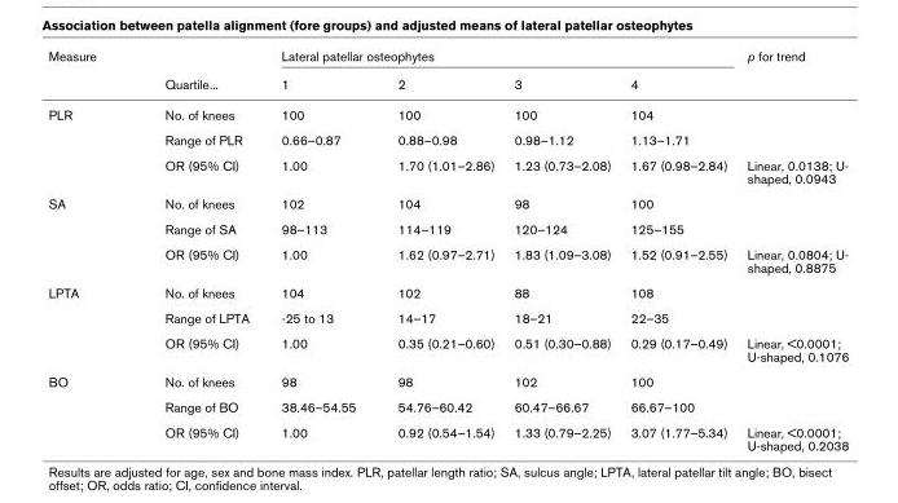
<table><thead><tr><td rowspan="2">Measure</td><td rowspan="2">Quartile...</td><td colspan="4">Lateral patellar osteophytes</td><td rowspan="2">p for trend</td></tr><tr><td>1</td><td>2</td><td>3</td><td>4</td></tr></thead><tbody><tr><td rowspan="3">PLR</td><td>No. of knees</td><td>100</td><td>100</td><td>100</td><td>104</td><td></td></tr><tr><td>Range of PLR</td><td>0.66–0.87</td><td>0.88–0.98</td><td>0.98–1.12</td><td>1.13–1.71</td><td></td></tr><tr><td>OR (95% CI)</td><td>1.00</td><td>1.70 (1.01–2.86)</td><td>1.23 (0.73–2.08)</td><td>1.67 (0.98–2.84)</td><td>Linear, 0.0138; U- shaped, 0.0943</td></tr><tr><td rowspan="3">SA</td><td>No. of knees</td><td>102</td><td>104</td><td>98</td><td>100</td><td></td></tr><tr><td>Range of SA</td><td>98–113</td><td>114–119</td><td>120–124</td><td>125–155</td><td></td></tr><tr><td>OR (95% CI)</td><td>1.00</td><td>1.62 (0.97–2.71)</td><td>1.83 (1.09–3.08)</td><td>1.52 (0.91–2.55)</td><td>Linear, 0.0804; U- shaped, 0.8875</td></tr><tr><td rowspan="3">LPTA</td><td>No. of knees</td><td>104</td><td>102</td><td>88</td><td>108</td><td></td></tr><tr><td>Range of LPTA</td><td>-25 to 13</td><td>14–17</td><td>18–21</td><td>22–35</td><td></td></tr><tr><td>OR (95% CI)</td><td>1.00</td><td>0.35 (0.21–0.60)</td><td>0.51 (0.30–0.88)</td><td>0.29 (0.17–0.49)</td><td>Linear, &lt;0.0001; U-shaped, 0.1076</td></tr><tr><td rowspan="3">BO</td><td>No. of knees</td><td>98</td><td>98</td><td>102</td><td>100</td><td></td></tr><tr><td>Range of BO</td><td>38.46–54.55</td><td>54.76–60.42</td><td>60.47–66.67</td><td>66.67–100</td><td></td></tr><tr><td>OR (95% CI)</td><td>1.00</td><td>0.92 (0.54–1.54)</td><td>1.33 (0.79–2.25)</td><td>3.07 (1.77–5.34)</td><td>Linear, &lt;0.0001; U-shaped, 0.2038</td></tr></tbody></table>